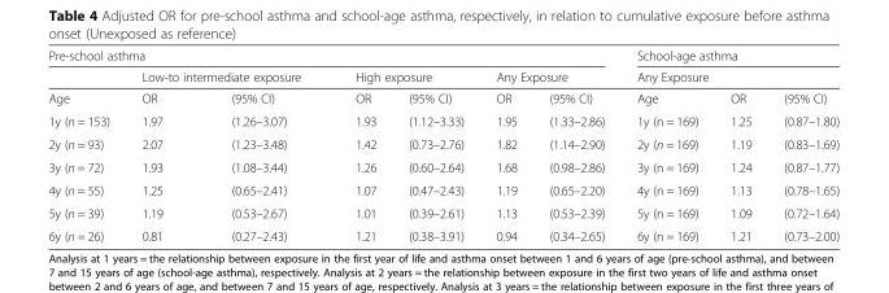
<table><thead><tr><td colspan="7">Pre-school asthma</td><td rowspan="2" colspan="3">School-age asthma Any Exposure</td></tr><tr><td rowspan="2">Age</td><td colspan="2">Low-to intermediate exposure</td><td colspan="2">High exposure</td><td colspan="2">Any Exposure</td></tr><tr><td>OR</td><td>(95% CI)</td><td>OR</td><td>(95% CI)</td><td>OR</td><td>(95% CI)</td><td>Age</td><td>OR</td><td>(95% CI)</td></tr></thead><tbody><tr><td>1y (n = 153)</td><td>1.97</td><td>(1.26–3.07)</td><td>1.93</td><td>(1.12–3.33)</td><td>1.95</td><td>(1.33–2.86)</td><td>1y (n = 169)</td><td>1.25</td><td>(0.87–1.80)</td></tr><tr><td>2y (n = 93)</td><td>2.07</td><td>(1.23–3.48)</td><td>1.42</td><td>(0.73–2.76)</td><td>1.82</td><td>(1.14–2.90)</td><td>2y (n = 169)</td><td>1.19</td><td>(0.83–1.69)</td></tr><tr><td>3y (n = 72)</td><td>1.93</td><td>(1.08–3.44)</td><td>1.26</td><td>(0.60–2.64)</td><td>1.68</td><td>(0.98–2.86)</td><td>3y (n = 169)</td><td>1.24</td><td>(0.87–1.77)</td></tr><tr><td>4y (n = 55)</td><td>1.25</td><td>(0.65–2.41)</td><td>1.07</td><td>(0.47–2.43)</td><td>1.19</td><td>(0.65–2.20)</td><td>4y (n = 169)</td><td>1.13</td><td>(0.78–1.65)</td></tr><tr><td>5y (n = 39)</td><td>1.19</td><td>(0.53–2.67)</td><td>1.01</td><td>(0.39–2.61)</td><td>1.13</td><td>(0.53–2.39)</td><td>5y (n = 169)</td><td>1.09</td><td>(0.72–1.64)</td></tr><tr><td>6y (n = 26)</td><td>0.81</td><td>(0.27–2.43)</td><td>1.21</td><td>(0.38–3.91)</td><td>0.94</td><td>(0.34–2.65)</td><td>6y (n = 169)</td><td>1.21</td><td>(0.73–2.00)</td></tr></tbody></table>